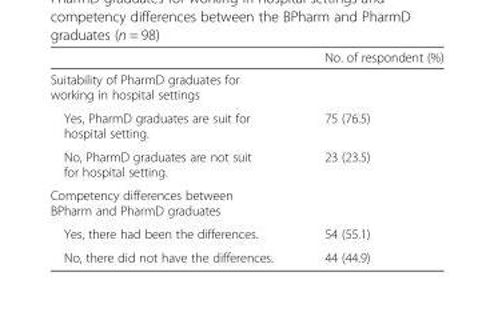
<table><thead><tr><td></td><td>No. of respondent (%)</td></tr></thead><tbody><tr><td colspan="2">Suitability of PharmD graduates for working in hospital settings</td></tr><tr><td>Yes, PharmD graduates are suit for hospital setting.</td><td>75 (76.5)</td></tr><tr><td>No, PharmD graduates are not suit for hospital setting.</td><td>23 (23.5)</td></tr><tr><td colspan="2">Competency differences between BPharm and PharmD graduates</td></tr><tr><td>Yes, there had been the differences.</td><td>54 (55.1)</td></tr><tr><td>No, there did not have the differences.</td><td>44 (44.9)</td></tr></tbody></table>